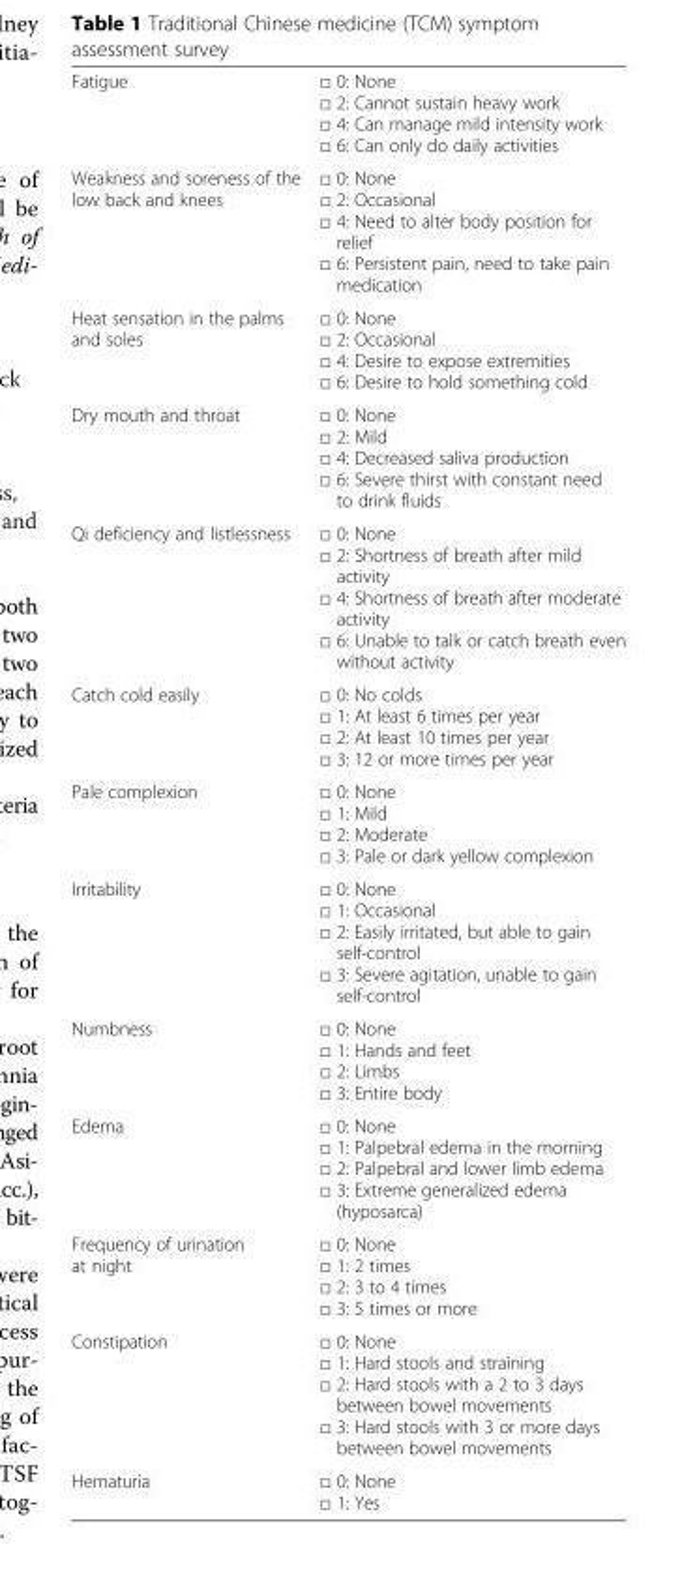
<table><tbody><tr><td>Fatigue</td><td>□ 0: None □ 2: Cannot sustain heavy work □ 4: Can manage mild intensity work □ 6: Can only do daily activities</td></tr><tr><td>Weakness and soreness of the low back and knees</td><td>□ 0: None □ 2: Occasional □ 4: Need to alter body position for relief □ 6: Persistent pain, need to take pain medication</td></tr><tr><td>Heat sensation in the palms and soles</td><td>□ 0: None □ 2: Occasional □ 4: Desire to expose extremities □ 6: Desire to hold something cold</td></tr><tr><td>Dry mouth and throat</td><td>□ 0: None □ 2: Mild □ 4: Decreased saliva production □ 6: Severe thirst with constant need to drink fluids</td></tr><tr><td>Qi deficiency and listlessness</td><td>□ 0: None □ 2: Shortness of breath after mild activity □ 4: Shortness of breath after moderate activity □ 6: Unable to talk or catch breath even without activity</td></tr><tr><td>Catch cold easily</td><td>□ 0: No colds □ 1: At least 6 times per year □ 2: At least 10 times per year □ 3: 12 or more times per year</td></tr><tr><td>Pale complexion</td><td>□ 0: None □ 1: Mild □ 2: Moderate □ 3: Pale or dark yellow complexion</td></tr><tr><td>Irritability</td><td>□ 0: None □ 1: Occasional □ 2: Easily irritated, but able to gain self-control □ 3: Severe agitation, unable to gain self-control</td></tr><tr><td>Numbness</td><td>□ 0: None □ 1: Hands and feet □ 2: Limbs □ 3: Entire body</td></tr><tr><td>Edema</td><td>□ 0: None □ 1: Palpebral edema in the morning □ 2: Palpebral and lower limb edema □ 3: Extreme generalized edema (hyposarca)</td></tr><tr><td>Frequency of urination at night</td><td>□ 0: None □ 1: 2 times □ 2: 3 to 4 times □ 3: 5 times or more</td></tr><tr><td>Constipation</td><td>□ 0: None □ 1: Hard stools and straining □ 2: Hard stools with a 2 to 3 days between bowel movements □ 3: Hard stools with 3 or more days between bowel movements</td></tr><tr><td>Hematuria</td><td>□ 0: None □ 1: Yes</td></tr></tbody></table>